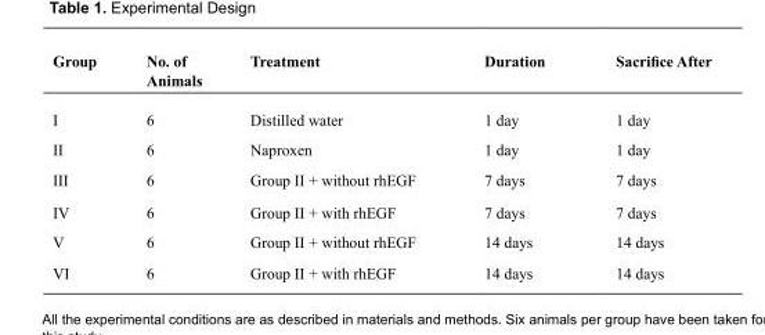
<table><thead><tr><td>Group</td><td>No. of Animals</td><td>Treatment</td><td>Duration</td><td>Sacrifice After</td></tr></thead><tbody><tr><td>I</td><td>6</td><td>Distilled water</td><td>1 day</td><td>1 day</td></tr><tr><td>II</td><td>6</td><td>Naproxen</td><td>1 day</td><td>1 day</td></tr><tr><td>III</td><td>6</td><td>Group II + without rhEGF</td><td>7 days</td><td>7 days</td></tr><tr><td>IV</td><td>6</td><td>Group II + with rhEGF</td><td>7 days</td><td>7 days</td></tr><tr><td>V</td><td>6</td><td>Group II + without rhEGF</td><td>14 days</td><td>14 days</td></tr><tr><td>VI</td><td>6</td><td>Group II + with rhEGF</td><td>14 days</td><td>14 days</td></tr></tbody></table>